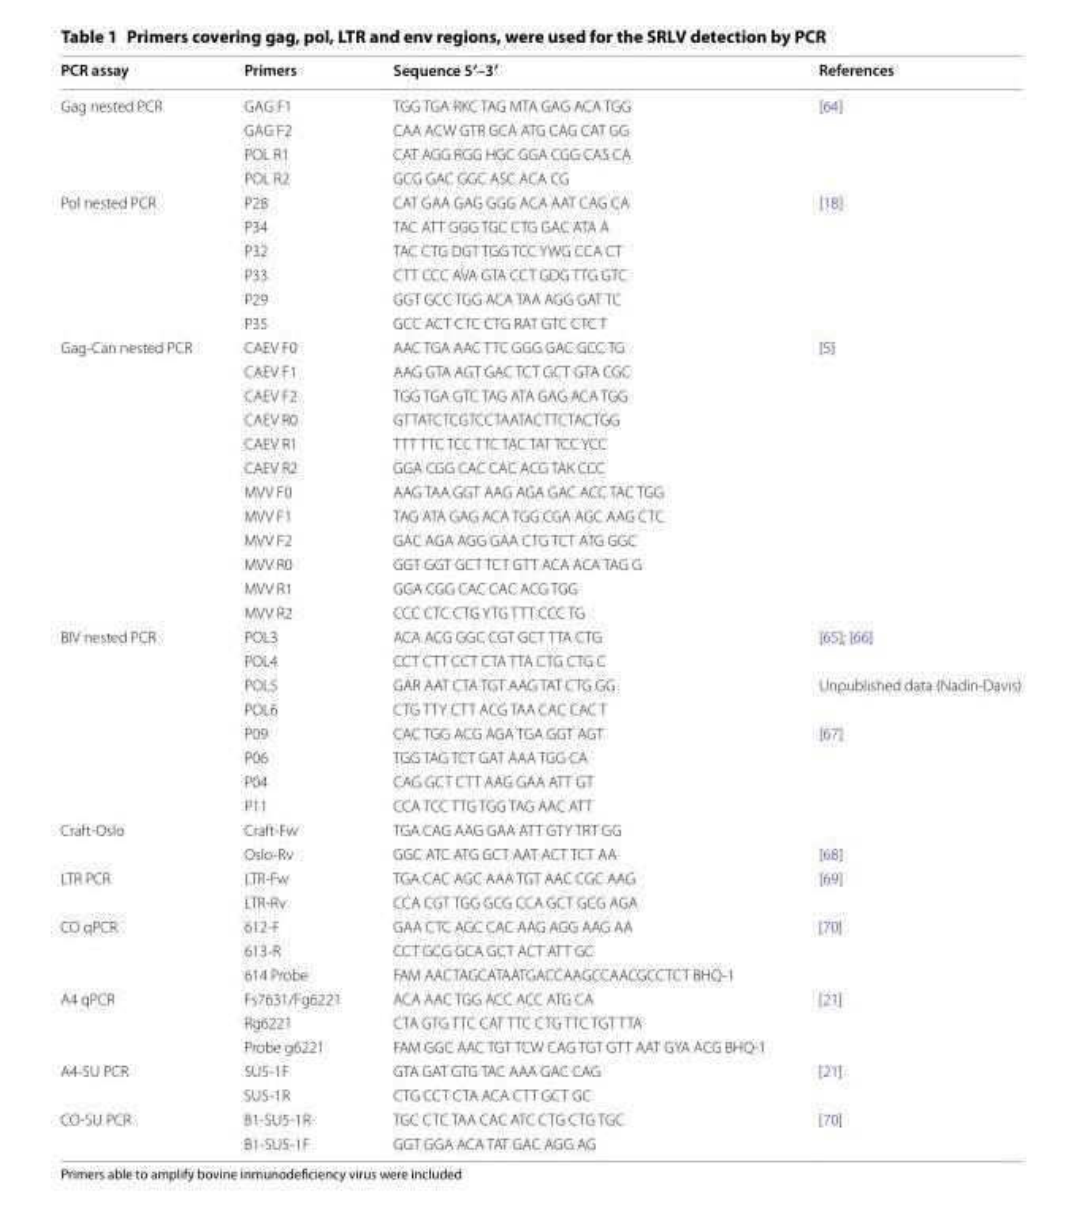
<table><thead><tr><td>PCR assay</td><td>Primers</td><td>Sequence 5′–3′</td><td>References</td></tr></thead><tbody><tr><td rowspan="4">Gag nested PCR</td><td>GAG F1</td><td>TGG TGA RKC TAG MTA GAG ACA TGG</td><td>[64]</td></tr><tr><td>GAG F2</td><td>CAA ACW GTR GCA ATG CAG CAT GG</td><td></td></tr><tr><td>POL R1</td><td>CAT AGG RGG HGC GGA CGG CAS CA</td><td></td></tr><tr><td>POL R2</td><td>GCG GAC GGC ASC ACA CG</td><td></td></tr><tr><td rowspan="6">Pol nested PCR</td><td>P28</td><td>CAT GAA GAG GGG ACA AAT CAG CA</td><td>[18]</td></tr><tr><td>P34</td><td>TAC ATT GGG TGC CTG GAC ATA A</td><td></td></tr><tr><td>P32</td><td>TAC CTG DGT TGG TCC YWG CCA CT</td><td></td></tr><tr><td>P33</td><td>CTT CCC AVA GTA CCT GDG TTG GTC</td><td></td></tr><tr><td>P29</td><td>GGT GCC TGG ACA TAA AGG GAT TC</td><td></td></tr><tr><td>P35</td><td>GCC ACT CTC CTG RAT GTC CTC T</td><td></td></tr><tr><td rowspan="12">Gag‑Can nested PCR</td><td>CAEV F0</td><td>AAC TGA AAC TTC GGG GAC GCC TG</td><td>[5]</td></tr><tr><td>CAEV F1</td><td>AAG GTA AGT GAC TCT GCT GTA CGC</td><td></td></tr><tr><td>CAEV F2</td><td>TGG TGA GTC TAG ATA GAG ACA TGG</td><td></td></tr><tr><td>CAEV R0</td><td>GTTATCTCGTCCTAATACTTCTACTGG</td><td></td></tr><tr><td>CAEV R1</td><td>TTT TTC TCC TTC TAC TAT TCC YCC</td><td></td></tr><tr><td>CAEV R2</td><td>GGA CGG CAC CAC ACG TAK CCC</td><td></td></tr><tr><td>MVV F0</td><td>AAG TAA GGT AAG AGA GAC ACC TAC TGG</td><td></td></tr><tr><td>MVV F1</td><td>TAG ATA GAG ACA TGG CGA AGC AAG CTC</td><td></td></tr><tr><td>MVV F2</td><td>GAC AGA AGG GAA CTG TCT ATG GGC</td><td></td></tr><tr><td>MVV R0</td><td>GGT GGT GCT TCT GTT ACA ACA TAG G</td><td></td></tr><tr><td>MVV R1</td><td>GGA CGG CAC CAC ACG TGG</td><td></td></tr><tr><td>MVV R2</td><td>CCC CTC CTG YTG TTT CCC TG</td><td></td></tr><tr><td rowspan="8">BIV nested PCR</td><td>POL3</td><td>ACA ACG GGC CGT GCT TTA CTG</td><td>[65]; [66]</td></tr><tr><td>POL4</td><td>CCT CTT CCT CTA TTA CTG CTG C</td><td></td></tr><tr><td>POL5</td><td>GAR AAT CTA TGT AAG TAT CTG GG</td><td>Unpublished data (Nadin‑Davis)</td></tr><tr><td>POL6</td><td>CTG TTY CTT ACG TAA CAC CAC T</td><td></td></tr><tr><td>P09</td><td>CAC TGG ACG AGA TGA GGT AGT</td><td>[67]</td></tr><tr><td>P06</td><td>TGG TAG TCT GAT AAA TGG CA</td><td></td></tr><tr><td>P04</td><td>CAG GCT CTT AAG GAA ATT GT</td><td></td></tr><tr><td>P11</td><td>CCA TCC TTG TGG TAG AAC ATT</td><td></td></tr><tr><td rowspan="2">Craft‑Oslo</td><td>Craft‑Fw</td><td>TGA CAG AAG GAA ATT GTY TRT GG</td><td></td></tr><tr><td>Oslo‑Rv</td><td>GGC ATC ATG GCT AAT ACT TCT AA</td><td>[68]</td></tr><tr><td rowspan="2">LTR PCR</td><td>LTR‑Fw</td><td>TGA CAC AGC AAA TGT AAC CGC AAG</td><td>[69]</td></tr><tr><td>LTR‑Rv</td><td>CCA CGT TGG GCG CCA GCT GCG AGA</td><td></td></tr><tr><td rowspan="3">CO qPCR</td><td>612‑F</td><td>GAA CTC AGC CAC AAG AGG AAG AA</td><td>[70]</td></tr><tr><td>613‑R</td><td>CCT GCG GCA GCT ACT ATT GC</td><td></td></tr><tr><td>614 Probe</td><td>FAM AACTAGCATAATGACCAAGCCAACGCCTCT BHQ‑1</td><td></td></tr><tr><td rowspan="3">A4 qPCR</td><td>Fs7631/Fg6221</td><td>ACA AAC TGG ACC ACC ATG CA</td><td>[21]</td></tr><tr><td>Rg6221</td><td>CTA GTG TTC CAT TTC CTG TTC TGT TTA</td><td></td></tr><tr><td>Probe g6221</td><td>FAM GGC AAC TGT TCW CAG TGT GTT AAT GYA ACG BHQ‑1</td><td></td></tr><tr><td rowspan="2">A4‑SU PCR</td><td>SU5‑1F</td><td>GTA GAT GTG TAC AAA GAC CAG</td><td>[21]</td></tr><tr><td>SU5‑1R</td><td>CTG CCT CTA ACA CTT GCT GC</td><td></td></tr><tr><td rowspan="2">CO‑SU PCR</td><td>B1‑SU5‑1R</td><td>TGC CTC TAA CAC ATC CTG CTG TGC</td><td>[70]</td></tr><tr><td>B1‑SU5‑1F</td><td>GGT GGA ACA TAT GAC AGG AG</td><td></td></tr></tbody></table>